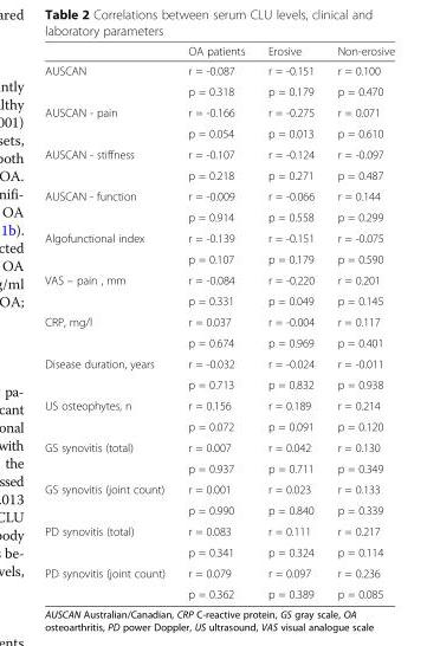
<table><thead><tr><td></td><td>OA patients</td><td>Erosive</td><td>Non-erosive</td></tr></thead><tbody><tr><td rowspan="2">AUSCAN</td><td>r = -0.087</td><td>r = -0.151</td><td>r = 0.100</td></tr><tr><td>p = 0.318</td><td>p = 0.179</td><td>p = 0.470</td></tr><tr><td rowspan="2">AUSCAN - pain</td><td>r = -0.166</td><td>r = -0.275</td><td>r = 0.071</td></tr><tr><td>p = 0.054</td><td>p = 0.013</td><td>p = 0.610</td></tr><tr><td rowspan="2">AUSCAN - stiffness</td><td>r = -0.107</td><td>r = -0.124</td><td>r = -0.097</td></tr><tr><td>p = 0.218</td><td>p = 0.271</td><td>p = 0.487</td></tr><tr><td rowspan="2">AUSCAN - function</td><td>r = -0.009</td><td>r = -0.066</td><td>r = 0.144</td></tr><tr><td>p = 0.914</td><td>p = 0.558</td><td>p = 0.299</td></tr><tr><td rowspan="2">Algofunctional index</td><td>r = -0.139</td><td>r = -0.151</td><td>r = -0.075</td></tr><tr><td>p = 0.107</td><td>p = 0.179</td><td>p = 0.590</td></tr><tr><td rowspan="2">VAS – pain , mm</td><td>r = -0.084</td><td>r = -0.220</td><td>r = 0.201</td></tr><tr><td>p = 0.331</td><td>p = 0.049</td><td>p = 0.145</td></tr><tr><td rowspan="2">CRP, mg/l</td><td>r = 0.037</td><td>r = -0.004</td><td>r = 0.117</td></tr><tr><td>p = 0.674</td><td>p = 0.969</td><td>p = 0.401</td></tr><tr><td rowspan="2">Disease duration, years</td><td>r = -0.032</td><td>r = -0.024</td><td>r = -0.011</td></tr><tr><td>p = 0.713</td><td>p = 0.832</td><td>p = 0.938</td></tr><tr><td rowspan="2">US osteophytes, n</td><td>r = 0.156</td><td>r = 0.189</td><td>r = 0.214</td></tr><tr><td>p = 0.072</td><td>p = 0.091</td><td>p = 0.120</td></tr><tr><td rowspan="2">GS synovitis (total)</td><td>r = 0.007</td><td>r = 0.042</td><td>r = 0.130</td></tr><tr><td>p = 0.937</td><td>p = 0.711</td><td>p = 0.349</td></tr><tr><td rowspan="2">GS synovitis (joint count)</td><td>r = 0.001</td><td>r = 0.023</td><td>r = 0.133</td></tr><tr><td>p = 0.990</td><td>p = 0.840</td><td>p = 0.339</td></tr><tr><td rowspan="2">PD synovitis (total)</td><td>r = 0.083</td><td>r = 0.111</td><td>r = 0.217</td></tr><tr><td>p = 0.341</td><td>p = 0.324</td><td>p = 0.114</td></tr><tr><td rowspan="2">PD synovitis (joint count)</td><td>r = 0.079</td><td>r = 0.097</td><td>r = 0.236</td></tr><tr><td>p = 0.362</td><td>p = 0.389</td><td>p = 0.085</td></tr></tbody></table>